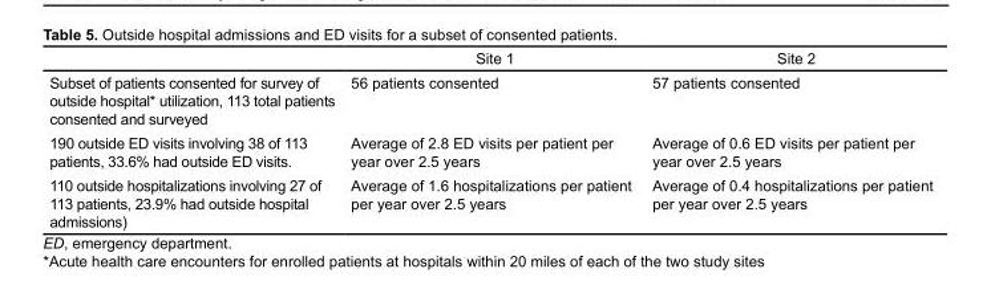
<table><thead><tr><td></td><td>Site 1</td><td>Site 2</td></tr></thead><tbody><tr><td>Subset of patients consented for survey of outside hospital* utilization, 113 total patients consented and surveyed</td><td>56 patients consented</td><td>57 patients consented</td></tr><tr><td>190 outside ED visits involving 38 of 113 patients, 33.6% had outside ED visits.</td><td>Average of 2.8 ED visits per patient per year over 2.5 years</td><td>Average of 0.6 ED visits per patient per year over 2.5 years</td></tr><tr><td>110 outside hospitalizations involving 27 of 113 patients, 23.9% had outside hospital admissions)</td><td>Average of 1.6 hospitalizations per patient per year over 2.5 years</td><td>Average of 0.4 hospitalizations per patient per year over 2.5 years</td></tr></tbody></table>